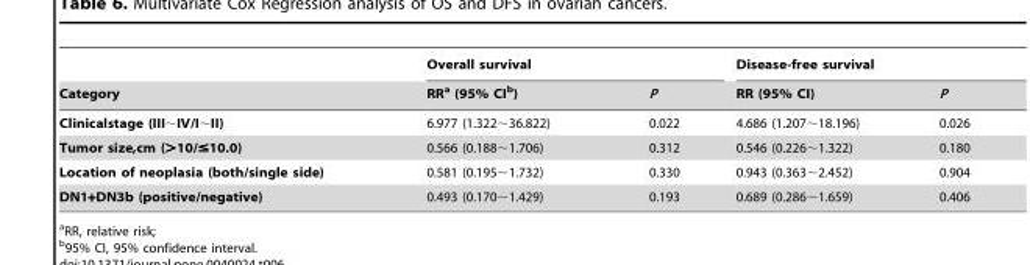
<table><thead><tr><td rowspan="2">Category</td><td colspan="2">Overall survival</td><td colspan="2">Disease-free survival</td></tr><tr><td>RR<sup>a</sup> (95% CI<sup>b</sup>)</td><td>P</td><td>RR (95% CI)</td><td>P</td></tr></thead><tbody><tr><td>Clinicalstage (III∼IV/I∼II)</td><td>6.977 (1.322∼36.822)</td><td>0.022</td><td>4.686 (1.207∼18.196)</td><td>0.026</td></tr><tr><td>Tumor size,cm (&gt;10/≤10.0)</td><td>0.566 (0.188∼1.706)</td><td>0.312</td><td>0.546 (0.226∼1.322)</td><td>0.180</td></tr><tr><td>Location of neoplasia (both/single side)</td><td>0.581 (0.195∼1.732)</td><td>0.330</td><td>0.943 (0.363∼2.452)</td><td>0.904</td></tr><tr><td>DN1+DN3b (positive/negative)</td><td>0.493 (0.170∼1.429)</td><td>0.193</td><td>0.689 (0.286∼1.659)</td><td>0.406</td></tr></tbody></table>